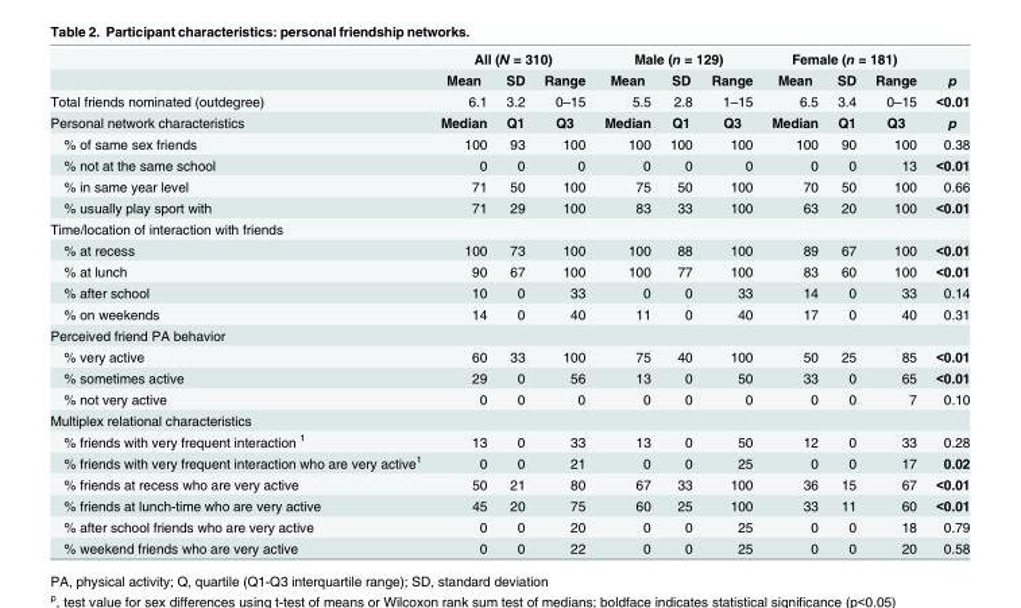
<table><thead><tr><td rowspan="2"></td><td colspan="3">All (N = 310)</td><td colspan="3">Male (n = 129)</td><td colspan="3">Female (n = 181)</td><td rowspan="2">p</td></tr><tr><td>Mean</td><td>SD</td><td>Range</td><td>Mean</td><td>SD</td><td>Range</td><td>Mean</td><td>SD</td><td>Range</td></tr></thead><tbody><tr><td>Total friends nominated (outdegree)</td><td>6.1</td><td>3.2</td><td>0–15</td><td>5.5</td><td>2.8</td><td>1–15</td><td>6.5</td><td>3.4</td><td>0–15</td><td>&lt;0.01</td></tr><tr><td>Personal network characteristics</td><td>Median</td><td>Q1</td><td>Q3</td><td>Median</td><td>Q1</td><td>Q3</td><td>Median</td><td>Q1</td><td>Q3</td><td>p</td></tr><tr><td>% of same sex friends</td><td>100</td><td>93</td><td>100</td><td>100</td><td>100</td><td>100</td><td>100</td><td>90</td><td>100</td><td>0.38</td></tr><tr><td>% not at the same school</td><td>0</td><td>0</td><td>0</td><td>0</td><td>0</td><td>0</td><td>0</td><td>0</td><td>13</td><td>&lt;0.01</td></tr><tr><td>% in same year level</td><td>71</td><td>50</td><td>100</td><td>75</td><td>50</td><td>100</td><td>70</td><td>50</td><td>100</td><td>0.66</td></tr><tr><td>% usually play sport with</td><td>71</td><td>29</td><td>100</td><td>83</td><td>33</td><td>100</td><td>63</td><td>20</td><td>100</td><td>&lt;0.01</td></tr><tr><td colspan="11">Time/location of interaction with friends</td></tr><tr><td>% at recess</td><td>100</td><td>73</td><td>100</td><td>100</td><td>88</td><td>100</td><td>89</td><td>67</td><td>100</td><td>&lt;0.01</td></tr><tr><td>% at lunch</td><td>90</td><td>67</td><td>100</td><td>100</td><td>77</td><td>100</td><td>83</td><td>60</td><td>100</td><td>&lt;0.01</td></tr><tr><td>% after school</td><td>10</td><td>0</td><td>33</td><td>0</td><td>0</td><td>33</td><td>14</td><td>0</td><td>33</td><td>0.14</td></tr><tr><td>% on weekends</td><td>14</td><td>0</td><td>40</td><td>11</td><td>0</td><td>40</td><td>17</td><td>0</td><td>40</td><td>0.31</td></tr><tr><td colspan="11">Perceived friend PA behavior</td></tr><tr><td>% very active</td><td>60</td><td>33</td><td>100</td><td>75</td><td>40</td><td>100</td><td>50</td><td>25</td><td>85</td><td>&lt;0.01</td></tr><tr><td>% sometimes active</td><td>29</td><td>0</td><td>56</td><td>13</td><td>0</td><td>50</td><td>33</td><td>0</td><td>65</td><td>&lt;0.01</td></tr><tr><td>% not very active</td><td>0</td><td>0</td><td>0</td><td>0</td><td>0</td><td>0</td><td>0</td><td>0</td><td>7</td><td>0.10</td></tr><tr><td colspan="11">Multiplex relational characteristics</td></tr><tr><td>% friends with very frequent interaction <sup>1</sup></td><td>13</td><td>0</td><td>33</td><td>13</td><td>0</td><td>50</td><td>12</td><td>0</td><td>33</td><td>0.28</td></tr><tr><td>% friends with very frequent interaction who are very active<sup>1</sup></td><td>0</td><td>0</td><td>21</td><td>0</td><td>0</td><td>25</td><td>0</td><td>0</td><td>17</td><td>0.02</td></tr><tr><td>% friends at recess who are very active</td><td>50</td><td>21</td><td>80</td><td>67</td><td>33</td><td>100</td><td>36</td><td>15</td><td>67</td><td>&lt;0.01</td></tr><tr><td>% friends at lunch-time who are very active</td><td>45</td><td>20</td><td>75</td><td>60</td><td>25</td><td>100</td><td>33</td><td>11</td><td>60</td><td>&lt;0.01</td></tr><tr><td>% after school friends who are very active</td><td>0</td><td>0</td><td>20</td><td>0</td><td>0</td><td>25</td><td>0</td><td>0</td><td>18</td><td>0.79</td></tr><tr><td>% weekend friends who are very active</td><td>0</td><td>0</td><td>22</td><td>0</td><td>0</td><td>25</td><td>0</td><td>0</td><td>20</td><td>0.58</td></tr></tbody></table>